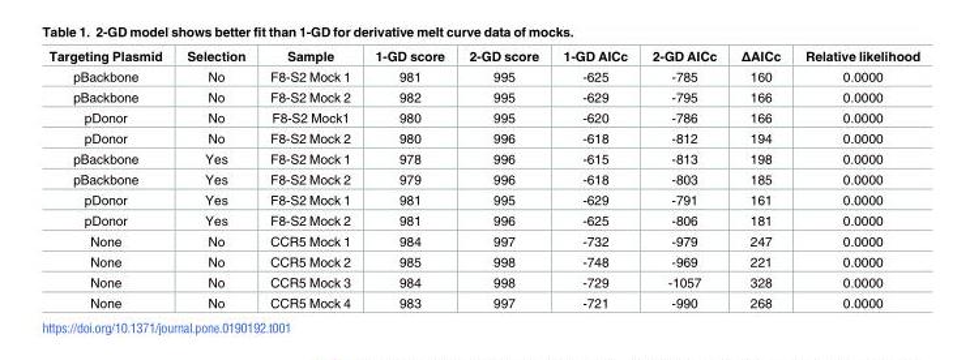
<table><thead><tr><td>Targeting Plasmid</td><td>Selection</td><td>Sample</td><td>1-GD score</td><td>2-GD score</td><td>1-GD AICc</td><td>2-GD AICc</td><td>ΔAICc</td><td>Relative likelihood</td></tr></thead><tbody><tr><td>pBackbone</td><td>No</td><td>F8-S2 Mock 1</td><td>981</td><td>995</td><td>-625</td><td>-785</td><td>160</td><td>0.0000</td></tr><tr><td>pBackbone</td><td>No</td><td>F8-S2 Mock 2</td><td>982</td><td>995</td><td>-629</td><td>-795</td><td>166</td><td>0.0000</td></tr><tr><td>pDonor</td><td>No</td><td>F8-S2 Mock1</td><td>980</td><td>995</td><td>-620</td><td>-786</td><td>166</td><td>0.0000</td></tr><tr><td>pDonor</td><td>No</td><td>F8-S2 Mock 2</td><td>980</td><td>996</td><td>-618</td><td>-812</td><td>194</td><td>0.0000</td></tr><tr><td>pBackbone</td><td>Yes</td><td>F8-S2 Mock 1</td><td>978</td><td>996</td><td>-615</td><td>-813</td><td>198</td><td>0.0000</td></tr><tr><td>pBackbone</td><td>Yes</td><td>F8-S2 Mock 2</td><td>979</td><td>996</td><td>-618</td><td>-803</td><td>185</td><td>0.0000</td></tr><tr><td>pDonor</td><td>Yes</td><td>F8-S2 Mock 1</td><td>981</td><td>995</td><td>-629</td><td>-791</td><td>161</td><td>0.0000</td></tr><tr><td>pDonor</td><td>Yes</td><td>F8-S2 Mock 2</td><td>981</td><td>996</td><td>-625</td><td>-806</td><td>181</td><td>0.0000</td></tr><tr><td>None</td><td>No</td><td>CCR5 Mock 1</td><td>984</td><td>997</td><td>-732</td><td>-979</td><td>247</td><td>0.0000</td></tr><tr><td>None</td><td>No</td><td>CCR5 Mock 2</td><td>985</td><td>998</td><td>-748</td><td>-969</td><td>221</td><td>0.0000</td></tr><tr><td>None</td><td>No</td><td>CCR5 Mock 3</td><td>984</td><td>998</td><td>-729</td><td>-1057</td><td>328</td><td>0.0000</td></tr><tr><td>None</td><td>No</td><td>CCR5 Mock 4</td><td>983</td><td>997</td><td>-721</td><td>-990</td><td>268</td><td>0.0000</td></tr></tbody></table>